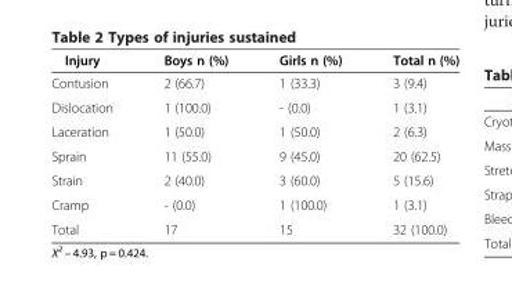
<table><thead><tr><td>Injury</td><td>Boys n (%)</td><td>Girls n (%)</td><td>Total n (%)</td></tr></thead><tbody><tr><td>Contusion</td><td>2 (66.7)</td><td>1 (33.3)</td><td>3 (9.4)</td></tr><tr><td>Dislocation</td><td>1 (100.0)</td><td>- (0.0)</td><td>1 (3.1)</td></tr><tr><td>Laceration</td><td>1 (50.0)</td><td>1 (50.0)</td><td>2 (6.3)</td></tr><tr><td>Sprain</td><td>11 (55.0)</td><td>9 (45.0)</td><td>20 (62.5)</td></tr><tr><td>Strain</td><td>2 (40.0)</td><td>3 (60.0)</td><td>5 (15.6)</td></tr><tr><td>Cramp</td><td>- (0.0)</td><td>1 (100.0)</td><td>1 (3.1)</td></tr><tr><td>Total</td><td>17</td><td>15</td><td>32 (100.0)</td></tr></tbody></table>